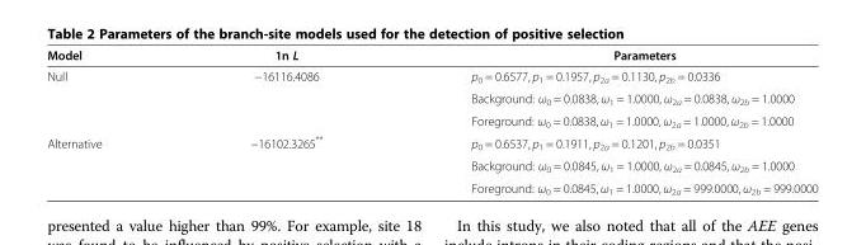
<table><thead><tr><td>Model</td><td>1n L</td><td>Parameters</td></tr></thead><tbody><tr><td rowspan="3">Null</td><td rowspan="3">−16116.4086</td><td>p<sub>0</sub> = 0.6577, p<sub>1</sub> = 0.1957, p<sub>2a</sub> = 0.1130, p<sub>2b</sub> = 0.0336</td></tr><tr><td>Background: ω<sub>0</sub> = 0.0838, ω<sub>1</sub> = 1.0000, ω<sub>2a</sub> = 0.0838, ω<sub>2b</sub> = 1.0000</td></tr><tr><td>Foreground: ω<sub>0</sub> = 0.0838, ω<sub>1</sub> = 1.0000, ω<sub>2a</sub> = 1.0000, ω<sub>2b</sub> = 1.0000</td></tr><tr><td rowspan="3">Alternative</td><td rowspan="2">−16102.3265**</td><td>p<sub>0</sub> = 0.6537, p<sub>1</sub> = 0.1911, p<sub>2a</sub> = 0.1201, p<sub>2b</sub> = 0.0351</td></tr><tr><td>Background: ω<sub>0</sub> = 0.0845, ω<sub>1</sub> = 1.0000, ω<sub>2a</sub> = 0.0845, ω<sub>2b</sub> = 1.0000</td></tr><tr><td></td><td>Foreground: ω<sub>0</sub> = 0.0845, ω<sub>1</sub> = 1.0000, ω<sub>2a</sub> = 999.0000, ω<sub>2b</sub> = 999.0000</td></tr></tbody></table>